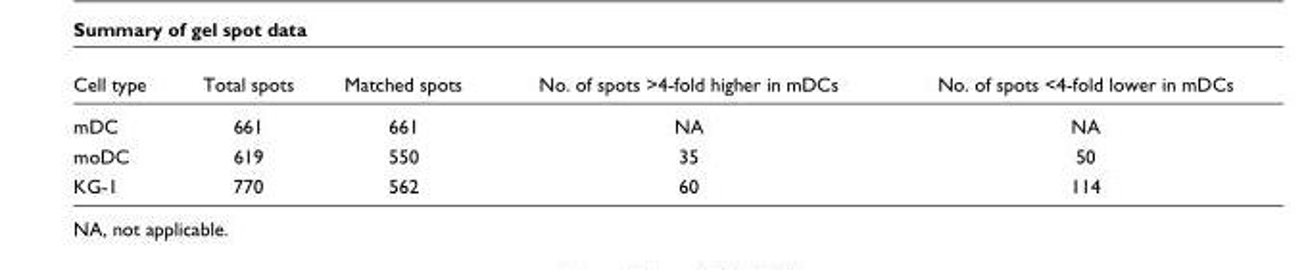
<table><thead><tr><td>Cell type</td><td>Total spots</td><td>Matched spots</td><td>No. of spots &gt;4-fold higher in mDCs</td><td>No. of spots &lt;4-fold lower in mDCs</td></tr></thead><tbody><tr><td>mDC</td><td>661</td><td>661</td><td>NA</td><td>NA</td></tr><tr><td>moDC</td><td>619</td><td>550</td><td>35</td><td>50</td></tr><tr><td>KG-1</td><td>770</td><td>562</td><td>60</td><td>114</td></tr></tbody></table>